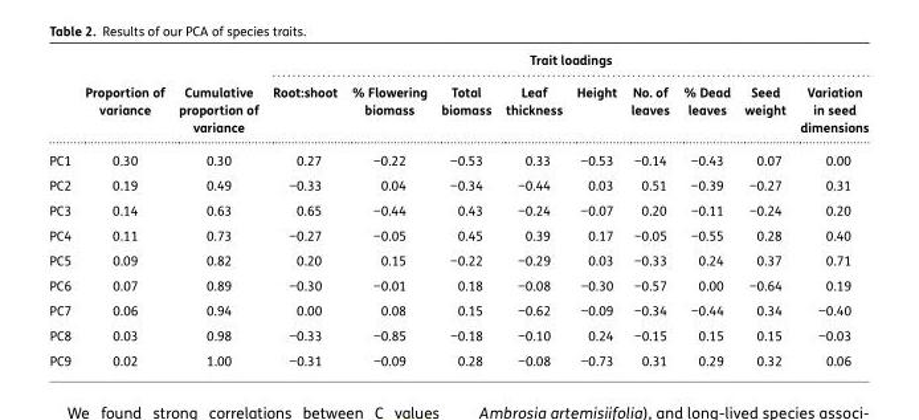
<table><thead><tr><td rowspan="2"></td><td rowspan="2">Proportion of variance</td><td rowspan="2">Cumulative proportion of variance</td><td colspan="9">Trait loadings</td></tr><tr><td>Root:shoot</td><td>% Flowering biomass</td><td>Total biomass</td><td>Leaf thickness</td><td>Height</td><td>No. of leaves</td><td>% Dead leaves</td><td>Seed weight</td><td>Variation in seed dimensions</td></tr></thead><tbody><tr><td>PC1</td><td>0.30</td><td>0.30</td><td>0.27</td><td>−0.22</td><td>−0.53</td><td>0.33</td><td>−0.53</td><td>−0.14</td><td>−0.43</td><td>0.07</td><td>0.00</td></tr><tr><td>PC2</td><td>0.19</td><td>0.49</td><td>−0.33</td><td>0.04</td><td>−0.34</td><td>−0.44</td><td>0.03</td><td>0.51</td><td>−0.39</td><td>−0.27</td><td>0.31</td></tr><tr><td>PC3</td><td>0.14</td><td>0.63</td><td>0.65</td><td>−0.44</td><td>0.43</td><td>−0.24</td><td>−0.07</td><td>0.20</td><td>−0.11</td><td>−0.24</td><td>0.20</td></tr><tr><td>PC4</td><td>0.11</td><td>0.73</td><td>−0.27</td><td>−0.05</td><td>0.45</td><td>0.39</td><td>0.17</td><td>−0.05</td><td>−0.55</td><td>0.28</td><td>0.40</td></tr><tr><td>PC5</td><td>0.09</td><td>0.82</td><td>0.20</td><td>0.15</td><td>−0.22</td><td>−0.29</td><td>0.03</td><td>−0.33</td><td>0.24</td><td>0.37</td><td>0.71</td></tr><tr><td>PC6</td><td>0.07</td><td>0.89</td><td>−0.30</td><td>−0.01</td><td>0.18</td><td>−0.08</td><td>−0.30</td><td>−0.57</td><td>0.00</td><td>−0.64</td><td>0.19</td></tr><tr><td>PC7</td><td>0.06</td><td>0.94</td><td>0.00</td><td>0.08</td><td>0.15</td><td>−0.62</td><td>−0.09</td><td>−0.34</td><td>−0.44</td><td>0.34</td><td>−0.40</td></tr><tr><td>PC8</td><td>0.03</td><td>0.98</td><td>−0.33</td><td>−0.85</td><td>−0.18</td><td>−0.10</td><td>0.24</td><td>−0.15</td><td>0.15</td><td>0.15</td><td>−0.03</td></tr><tr><td>PC9</td><td>0.02</td><td>1.00</td><td>−0.31</td><td>−0.09</td><td>0.28</td><td>−0.08</td><td>−0.73</td><td>0.31</td><td>0.29</td><td>0.32</td><td>0.06</td></tr></tbody></table>